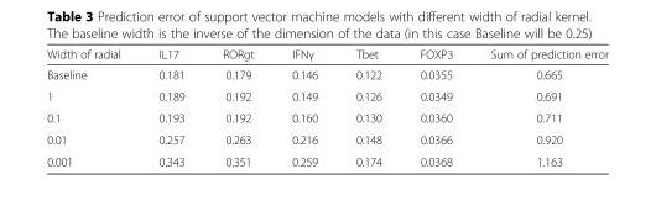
<table><thead><tr><td>Width of radial</td><td>IL17</td><td>RORgt</td><td>IFNγ</td><td>Tbet</td><td>FOXP3</td><td>Sum of prediction error</td></tr></thead><tbody><tr><td>Baseline</td><td>0.181</td><td>0.179</td><td>0.146</td><td>0.122</td><td>0.0355</td><td>0.665</td></tr><tr><td>1</td><td>0.189</td><td>0.192</td><td>0.149</td><td>0.126</td><td>0.0349</td><td>0.691</td></tr><tr><td>0.1</td><td>0.193</td><td>0.192</td><td>0.160</td><td>0.130</td><td>0.0360</td><td>0.711</td></tr><tr><td>0.01</td><td>0.257</td><td>0.263</td><td>0.216</td><td>0.148</td><td>0.0366</td><td>0.920</td></tr><tr><td>0.001</td><td>0.343</td><td>0.351</td><td>0.259</td><td>0.174</td><td>0.0368</td><td>1.163</td></tr></tbody></table>